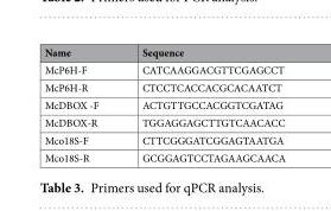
<table><thead><tr><td>Name</td><td>Sequence</td></tr></thead><tbody><tr><td>McP6H-F</td><td>CATCAAGGACGTTCGAGCCT</td></tr><tr><td>McP6H-R</td><td>CTCCTCACCACGCACAATCT</td></tr><tr><td>McDBOX -F</td><td>ACTGTTGCCACGGTCGATAG</td></tr><tr><td>McDBOX-R</td><td>TGGAGGAGCTTGTCAACACC</td></tr><tr><td>Mco18S-F</td><td>CTTCGGGATCGGAGTAATGA</td></tr><tr><td>Mco18S-R</td><td>GCGGAGTCCTAGAAGCAACA</td></tr></tbody></table>